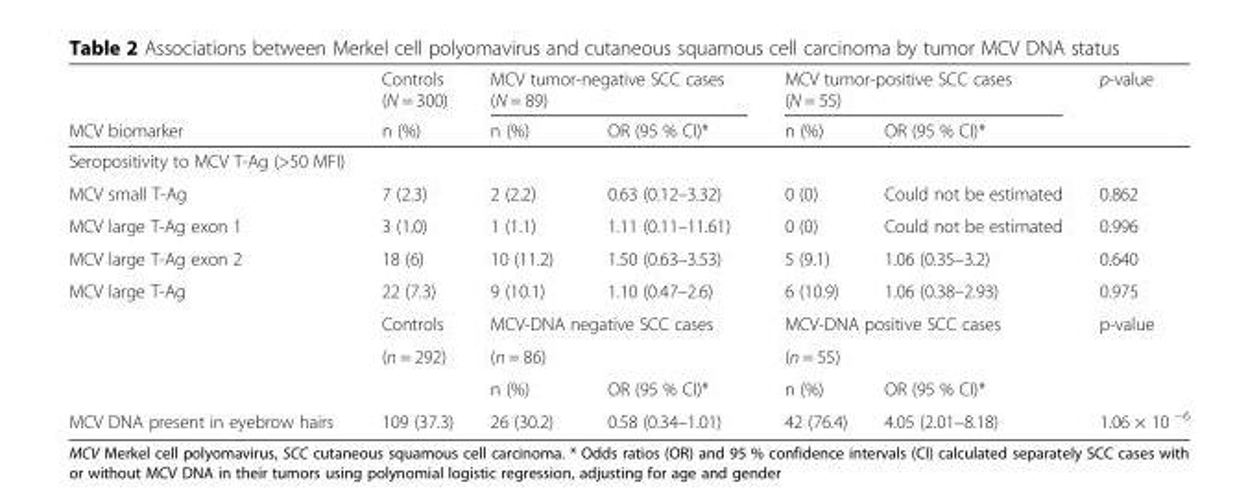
<table><thead><tr><td rowspan="2">MCV biomarker</td><td rowspan="2">Controls (N = 300) n (%)</td><td colspan="2">MCV tumor-negative SCC cases (N = 89)</td><td colspan="2">MCV tumor-positive SCC cases (N = 55)</td><td rowspan="2">p-value</td></tr><tr><td>n (%)</td><td>OR (95 % CI)*</td><td>n (%)</td><td>OR (95 % CI)*</td></tr></thead><tbody><tr><td colspan="7">Seropositivity to MCV T-Ag (&gt;50 MFI)</td></tr><tr><td>MCV small T-Ag</td><td>7 (2.3)</td><td>2 (2.2)</td><td>0.63 (0.12–3.32)</td><td>0 (0)</td><td>Could not be estimated</td><td>0.862</td></tr><tr><td>MCV large T-Ag exon 1</td><td>3 (1.0)</td><td>1 (1.1)</td><td>1.11 (0.11–11.61)</td><td>0 (0)</td><td>Could not be estimated</td><td>0.996</td></tr><tr><td>MCV large T-Ag exon 2</td><td>18 (6)</td><td>10 (11.2)</td><td>1.50 (0.63–3.53)</td><td>5 (9.1)</td><td>1.06 (0.35–3.2)</td><td>0.640</td></tr><tr><td rowspan="4">MCV large T-Ag</td><td>22 (7.3)</td><td>9 (10.1)</td><td>1.10 (0.47–2.6)</td><td>6 (10.9)</td><td>1.06 (0.38–2.93)</td><td>0.975</td></tr><tr><td>Controls</td><td colspan="2">MCV-DNA negative SCC cases</td><td colspan="2">MCV-DNA positive SCC cases</td><td rowspan="2">p-value</td></tr><tr><td>(n = 292)</td><td colspan="2">(n = 86)</td><td colspan="2">(n = 55)</td></tr><tr><td></td><td>n (%)</td><td>OR (95 % CI)*</td><td>n (%)</td><td>OR (95 % CI)*</td><td></td></tr><tr><td>MCV DNA present in eyebrow hairs</td><td>109 (37.3)</td><td>26 (30.2)</td><td>0.58 (0.34–1.01)</td><td>42 (76.4)</td><td>4.05 (2.01–8.18)</td><td>1.06 × 10 <sup>−6</sup></td></tr></tbody></table>